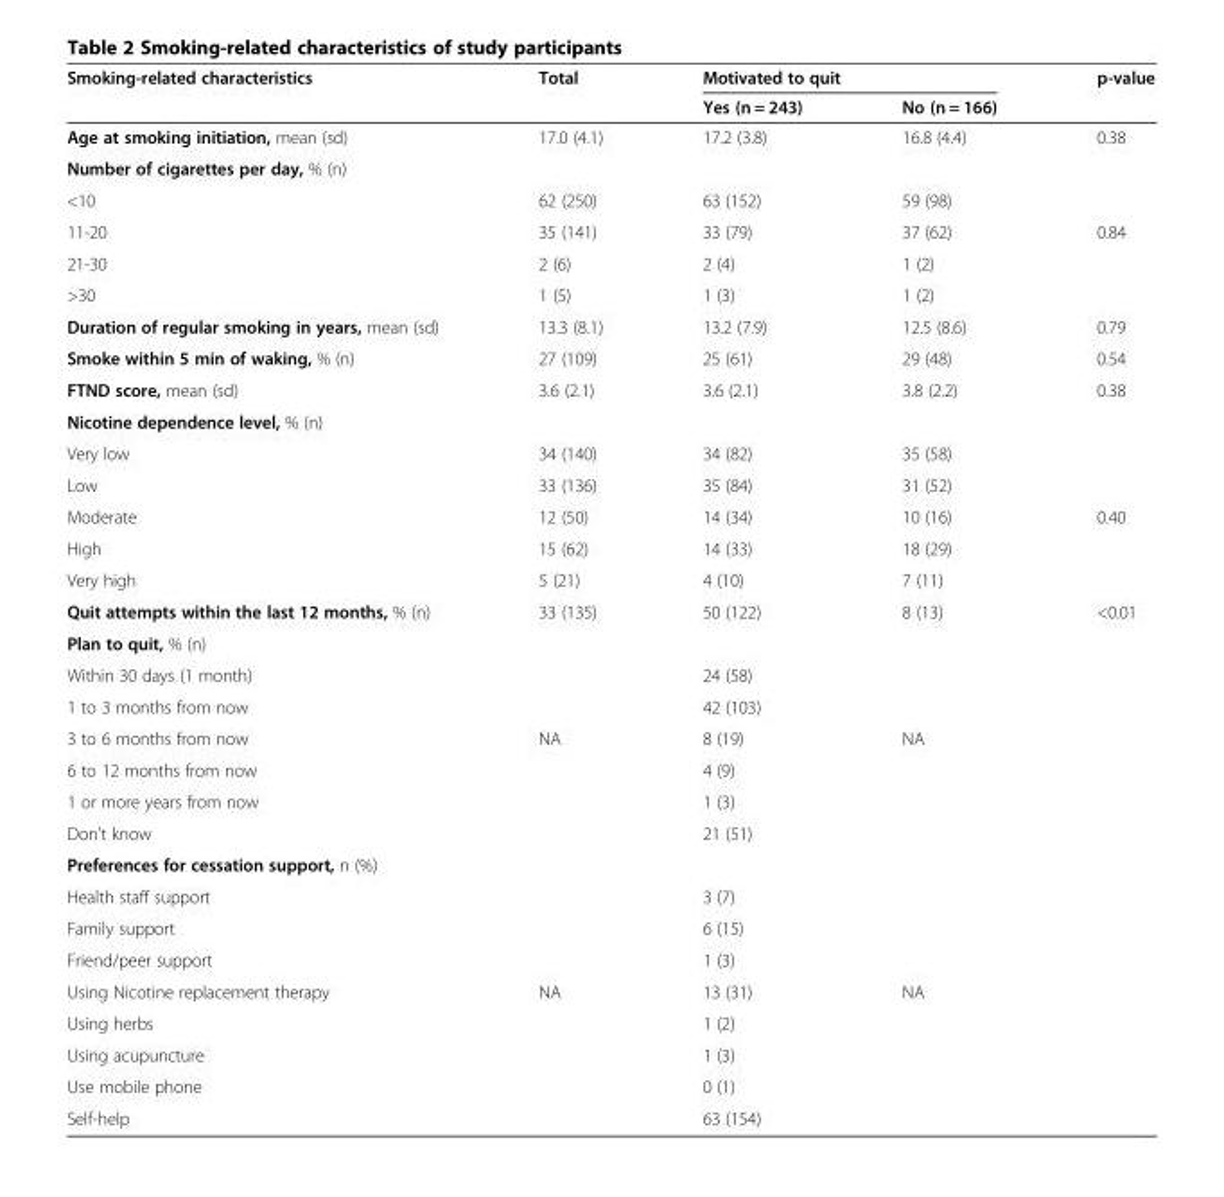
<table><thead><tr><td rowspan="2">Smoking-related characteristics</td><td rowspan="2">Total</td><td colspan="2">Motivated to quit</td><td rowspan="2">p-value</td></tr><tr><td>Yes (n = 243)</td><td>No (n = 166)</td></tr></thead><tbody><tr><td>Age at smoking initiation, mean (sd)</td><td>17.0 (4.1)</td><td>17.2 (3.8)</td><td>16.8 (4.4)</td><td>0.38</td></tr><tr><td colspan="5">Number of cigarettes per day, % (n)</td></tr><tr><td>&lt;10</td><td>62 (250)</td><td>63 (152)</td><td>59 (98)</td><td></td></tr><tr><td>11-20</td><td>35 (141)</td><td>33 (79)</td><td>37 (62)</td><td>0.84</td></tr><tr><td>21-30</td><td>2 (6)</td><td>2 (4)</td><td>1 (2)</td><td></td></tr><tr><td>&gt;30</td><td>1 (5)</td><td>1 (3)</td><td>1 (2)</td><td></td></tr><tr><td>Duration of regular smoking in years, mean (sd)</td><td>13.3 (8.1)</td><td>13.2 (7.9)</td><td>12.5 (8.6)</td><td>0.79</td></tr><tr><td>Smoke within 5 min of waking, % (n)</td><td>27 (109)</td><td>25 (61)</td><td>29 (48)</td><td>0.54</td></tr><tr><td>FTND score, mean (sd)</td><td>3.6 (2.1)</td><td>3.6 (2.1)</td><td>3.8 (2.2)</td><td>0.38</td></tr><tr><td colspan="5">Nicotine dependence level, % (n)</td></tr><tr><td>Very low</td><td>34 (140)</td><td>34 (82)</td><td>35 (58)</td><td></td></tr><tr><td>Low</td><td>33 (136)</td><td>35 (84)</td><td>31 (52)</td><td></td></tr><tr><td>Moderate</td><td>12 (50)</td><td>14 (34)</td><td>10 (16)</td><td>0.40</td></tr><tr><td>High</td><td>15 (62)</td><td>14 (33)</td><td>18 (29)</td><td></td></tr><tr><td>Very high</td><td>5 (21)</td><td>4 (10)</td><td>7 (11)</td><td></td></tr><tr><td>Quit attempts within the last 12 months, % (n)</td><td>33 (135)</td><td>50 (122)</td><td>8 (13)</td><td>&lt;0.01</td></tr><tr><td colspan="5">Plan to quit, % (n)</td></tr><tr><td>Within 30 days (1 month)</td><td></td><td>24 (58)</td><td></td><td></td></tr><tr><td>1 to 3 months from now</td><td></td><td>42 (103)</td><td></td><td></td></tr><tr><td>3 to 6 months from now</td><td>NA</td><td>8 (19)</td><td>NA</td><td></td></tr><tr><td>6 to 12 months from now</td><td></td><td>4 (9)</td><td></td><td></td></tr><tr><td>1 or more years from now</td><td></td><td>1 (3)</td><td></td><td></td></tr><tr><td>Don’t know</td><td></td><td>21 (51)</td><td></td><td></td></tr><tr><td colspan="5">Preferences for cessation support, n (%)</td></tr><tr><td>Health staff support</td><td></td><td>3 (7)</td><td></td><td></td></tr><tr><td>Family support</td><td></td><td>6 (15)</td><td></td><td></td></tr><tr><td>Friend/peer support</td><td></td><td>1 (3)</td><td></td><td></td></tr><tr><td>Using Nicotine replacement therapy</td><td>NA</td><td>13 (31)</td><td>NA</td><td></td></tr><tr><td>Using herbs</td><td></td><td>1 (2)</td><td></td><td></td></tr><tr><td>Using acupuncture</td><td></td><td>1 (3)</td><td></td><td></td></tr><tr><td>Use mobile phone</td><td></td><td>0 (1)</td><td></td><td></td></tr><tr><td>Self-help</td><td></td><td>63 (154)</td><td></td><td></td></tr></tbody></table>